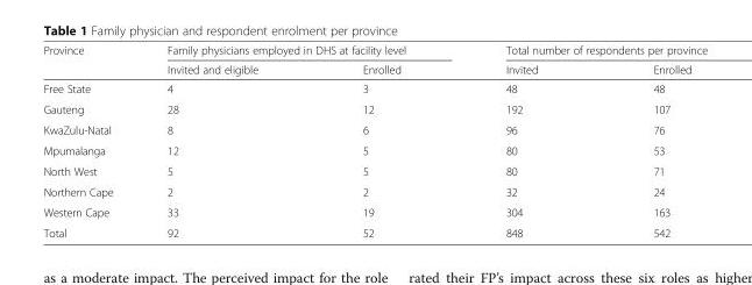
<table><thead><tr><td rowspan="2">Province</td><td colspan="2">Family physicians employed in DHS at facility level</td><td colspan="2">Total number of respondents per province</td></tr><tr><td>Invited and eligible</td><td>Enrolled</td><td>Invited</td><td>Enrolled</td></tr></thead><tbody><tr><td>Free State</td><td>4</td><td>3</td><td>48</td><td>48</td></tr><tr><td>Gauteng</td><td>28</td><td>12</td><td>192</td><td>107</td></tr><tr><td>KwaZulu-Natal</td><td>8</td><td>6</td><td>96</td><td>76</td></tr><tr><td>Mpumalanga</td><td>12</td><td>5</td><td>80</td><td>53</td></tr><tr><td>North West</td><td>5</td><td>5</td><td>80</td><td>71</td></tr><tr><td>Northern Cape</td><td>2</td><td>2</td><td>32</td><td>24</td></tr><tr><td>Western Cape</td><td>33</td><td>19</td><td>304</td><td>163</td></tr><tr><td>Total</td><td>92</td><td>52</td><td>848</td><td>542</td></tr></tbody></table>